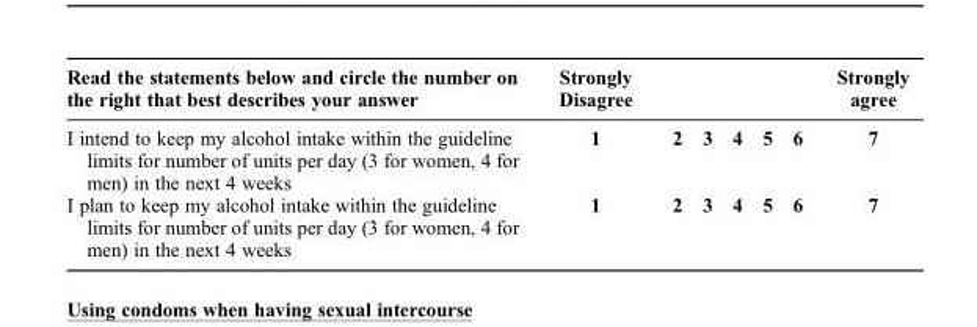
<table><thead><tr><td>Read the statements below and circle the number on the right that best describes your answer</td><td>Strongly Disagree</td><td></td><td></td><td></td><td></td><td></td><td>Strongly agree</td></tr></thead><tbody><tr><td>I intend to keep my alcohol intake within the guideline limits for number of units per day (3 for women, 4 for men) in the next 4 weeks</td><td>1</td><td>2</td><td>3</td><td>4</td><td>5</td><td>6</td><td>7</td></tr><tr><td>I plan to keep my alcohol intake within the guideline limits for number of units per day (3 for women, 4 for men) in the next 4 weeks</td><td>1</td><td>2</td><td>3</td><td>4</td><td>5</td><td>6</td><td>7</td></tr></tbody></table>